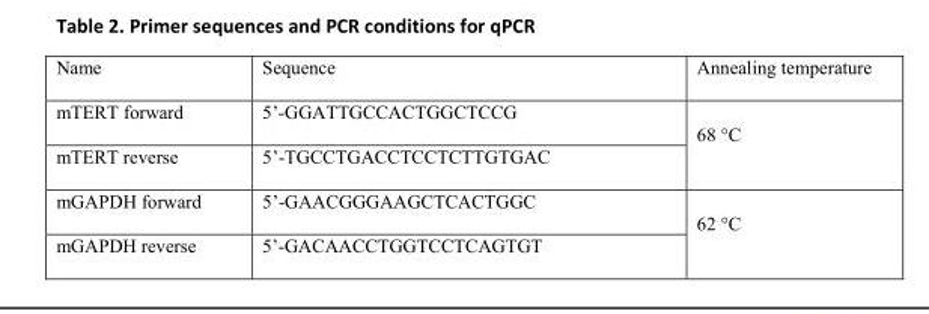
<table><thead><tr><td>Name</td><td>Sequence</td><td>Annealing temperature</td></tr></thead><tbody><tr><td>mTERT forward</td><td>5’-GGATTGCCACTGGCTCCG</td><td rowspan="2">68 °C</td></tr><tr><td>mTERT reverse</td><td>5’-TGCCTGACCTCCTCTTGTGAC</td></tr><tr><td>mGAPDH forward</td><td>5’-GAACGGGAAGCTCACTGGC</td><td rowspan="2">62 °C</td></tr><tr><td>mGAPDH reverse</td><td>5’-GACAACCTGGTCCTCAGTGT</td></tr></tbody></table>